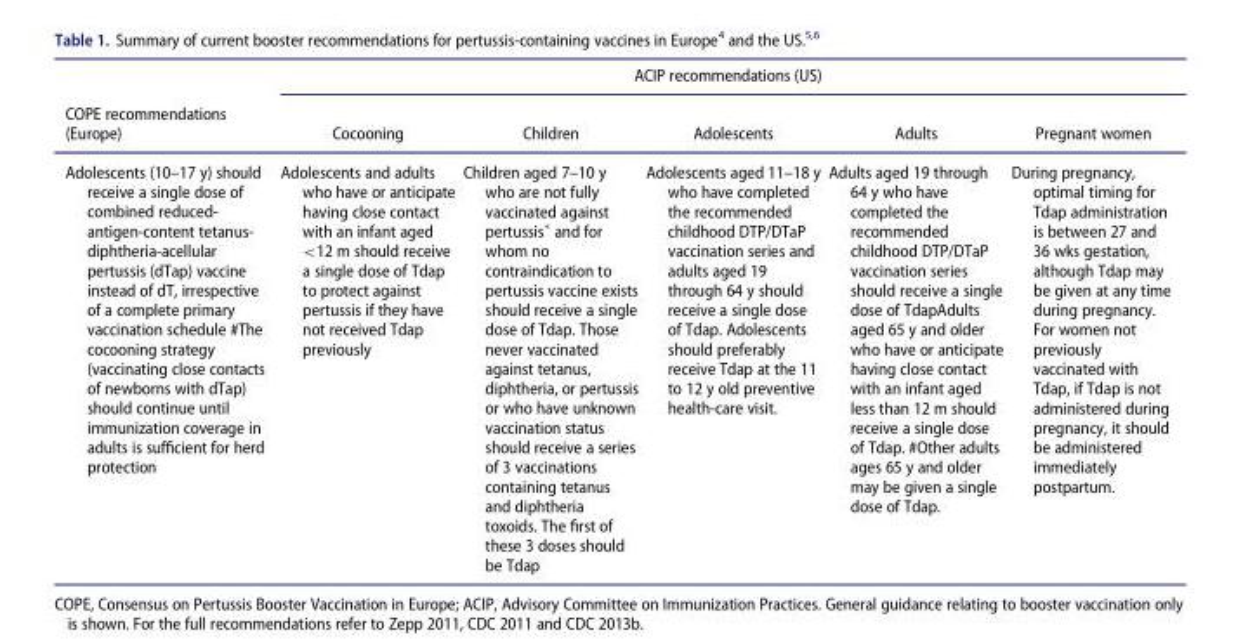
<table><thead><tr><td rowspan="2">COPE recommendations (Europe)</td><td colspan="5">ACIP recommendations (US)</td></tr><tr><td>Cocooning</td><td>Children</td><td>Adolescents</td><td>Adults</td><td>Pregnant women</td></tr></thead><tbody><tr><td>Adolescents (10–17 y) should receive a single dose of combined reduced- antigen-content tetanus- diphtheria-acellular pertussis (dTap) vaccine instead of dT, irrespective of a complete primary vaccination schedule #The cocooning strategy (vaccinating close contacts of newborns with dTap) should continue until immunization coverage in adults is sufficient for herd protection</td><td>Adolescents and adults who have or anticipate having close contact with an infant aged &lt;12 m should receive a single dose of Tdap to protect against pertussis if they have not received Tdap previously</td><td>Children aged 7–10 y who are not fully vaccinated against pertussis* and for whom no contraindication to pertussis vaccine exists should receive a single dose of Tdap. Those never vaccinated against tetanus, diphtheria, or pertussis or who have unknown vaccination status should receive a series of 3 vaccinations containing tetanus and diphtheria toxoids. The first of these 3 doses should be Tdap</td><td>Adolescents aged 11–18 y who have completed the recommended childhood DTP/DTaP vaccination series and adults aged 19 through 64 y should receive a single dose of Tdap. Adolescents should preferably receive Tdap at the 11 to 12 y old preventive health-care visit.</td><td>Adults aged 19 through 64 y who have completed the recommended childhood DTP/DTaP vaccination series should receive a single dose of TdapAdults aged 65 y and older who have or anticipate having close contact with an infant aged less than 12 m should receive a single dose of Tdap. #Other adults ages 65 y and older may be given a single dose of Tdap.</td><td>During pregnancy, optimal timing for Tdap administration is between 27 and 36 wks gestation, although Tdap may be given at any time during pregnancy. For women not previously vaccinated with Tdap, if Tdap is not administered during pregnancy, it should be administered immediately postpartum.</td></tr></tbody></table>